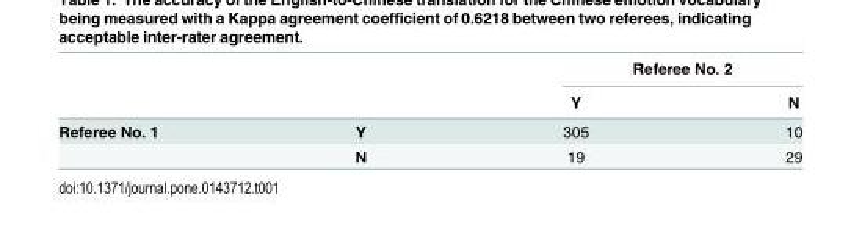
<table><thead><tr><td rowspan="2"></td><td rowspan="2"></td><td colspan="2">Referee No. 2</td></tr><tr><td>Y</td><td>N</td></tr></thead><tbody><tr><td rowspan="2">Referee No. 1</td><td>Y</td><td>305</td><td>10</td></tr><tr><td>N</td><td>19</td><td>29</td></tr></tbody></table>